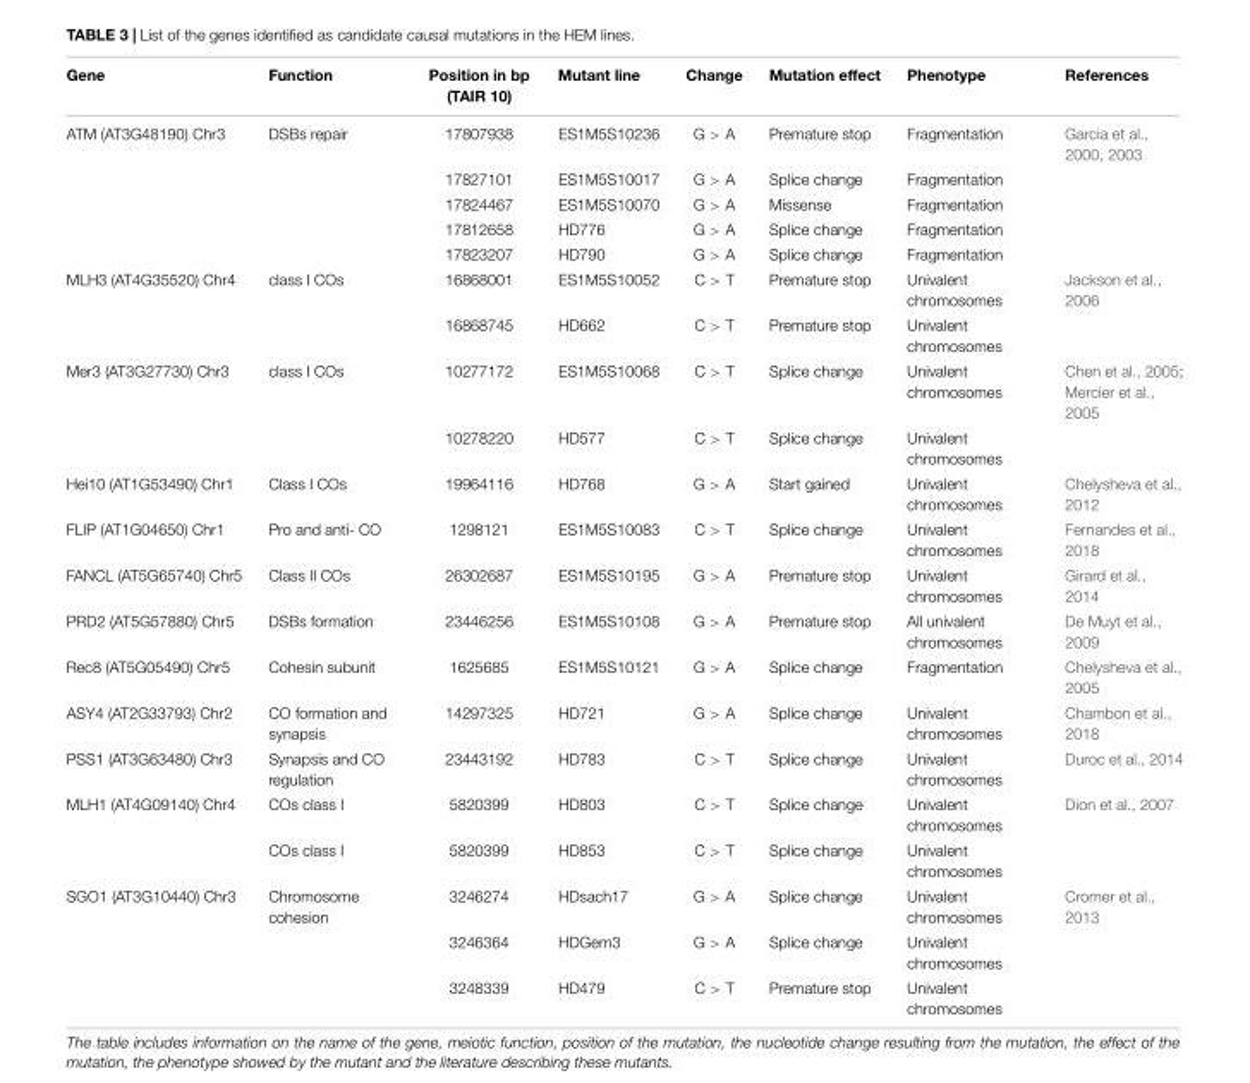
<table><thead><tr><td>Gene</td><td>Function</td><td>Position in bp (TAIR 10)</td><td>Mutant line</td><td>Change</td><td>Mutation effect</td><td>Phenotype</td><td>References</td></tr></thead><tbody><tr><td rowspan="5">ATM (AT3G48190) Chr3</td><td>DSBs repair</td><td>17807938</td><td>ES1M5S10236</td><td>G &gt; A</td><td>Premature stop</td><td>Fragmentation</td><td>Garcia et al., 2000, 2003</td></tr><tr><td></td><td>17827101</td><td>ES1M5S10017</td><td>G &gt; A</td><td>Splice change</td><td>Fragmentation</td><td></td></tr><tr><td></td><td>17824467</td><td>ES1M5S10070</td><td>G &gt; A</td><td>Missense</td><td>Fragmentation</td><td></td></tr><tr><td></td><td>17812658</td><td>HD776</td><td>G &gt; A</td><td>Splice change</td><td>Fragmentation</td><td></td></tr><tr><td></td><td>17823207</td><td>HD790</td><td>G &gt; A</td><td>Splice change</td><td>Fragmentation</td><td></td></tr><tr><td rowspan="2">MLH3 (AT4G35520) Chr4</td><td>class I COs</td><td>16868001</td><td>ES1M5S10052</td><td>C &gt; T</td><td>Premature stop</td><td>Univalent chromosomes</td><td>Jackson et al., 2006</td></tr><tr><td></td><td>16868745</td><td>HD662</td><td>C &gt; T</td><td>Premature stop</td><td>Univalent chromosomes</td><td></td></tr><tr><td rowspan="2">Mer3 (AT3G27730) Chr3</td><td>class I COs</td><td>10277172</td><td>ES1M5S10068</td><td>C &gt; T</td><td>Splice change</td><td>Univalent chromosomes</td><td>Chen et al., 2005; Mercier et al., 2005</td></tr><tr><td></td><td>10278220</td><td>HD577</td><td>C &gt; T</td><td>Splice change</td><td>Univalent chromosomes</td><td></td></tr><tr><td>Hei10 (AT1G53490) Chr1</td><td>Class I COs</td><td>19964116</td><td>HD768</td><td>G &gt; A</td><td>Start gained</td><td>Univalent chromosomes</td><td>Chelysheva et al., 2012</td></tr><tr><td>FLIP (AT1G04650) Chr1</td><td>Pro and anti- CO</td><td>1298121</td><td>ES1M5S10083</td><td>C &gt; T</td><td>Splice change</td><td>Univalent chromosomes</td><td>Fernandes et al., 2018</td></tr><tr><td>FANCL (AT5G65740) Chr5</td><td>Class II COs</td><td>26302687</td><td>ES1M5S10195</td><td>G &gt; A</td><td>Premature stop</td><td>Univalent chromosomes</td><td>Girard et al., 2014</td></tr><tr><td>PRD2 (AT5G57880) Chr5</td><td>DSBs formation</td><td>23446256</td><td>ES1M5S10108</td><td>G &gt; A</td><td>Premature stop</td><td>All univalent chromosomes</td><td>De Muyt et al., 2009</td></tr><tr><td>Rec8 (AT5G05490) Chr5</td><td>Cohesin subunit</td><td>1625685</td><td>ES1M5S10121</td><td>G &gt; A</td><td>Splice change</td><td>Fragmentation</td><td>Chelysheva et al., 2005</td></tr><tr><td>ASY4 (AT2G33793) Chr2</td><td>CO formation and synapsis</td><td>14297325</td><td>HD721</td><td>G &gt; A</td><td>Splice change</td><td>Univalent chromosomes</td><td>Chambon et al., 2018</td></tr><tr><td>PSS1 (AT3G63480) Chr3</td><td>Synapsis and CO regulation</td><td>23443192</td><td>HD783</td><td>C &gt; T</td><td>Splice change</td><td>Univalent chromosomes</td><td>Duroc et al., 2014</td></tr><tr><td rowspan="2">MLH1 (AT4G09140) Chr4</td><td>COs class I</td><td>5820399</td><td>HD803</td><td>C &gt; T</td><td>Splice change</td><td>Univalent chromosomes</td><td>Dion et al., 2007</td></tr><tr><td>COs class I</td><td>5820399</td><td>HD853</td><td>C &gt; T</td><td>Splice change</td><td>Univalent chromosomes</td><td></td></tr><tr><td rowspan="3">SGO1 (AT3G10440) Chr3</td><td>Chromosome cohesion</td><td>3246274</td><td>HDsach17</td><td>G &gt; A</td><td>Splice change</td><td>Univalent chromosomes</td><td>Cromer et al., 2013</td></tr><tr><td></td><td>3246364</td><td>HDGem3</td><td>G &gt; A</td><td>Splice change</td><td>Univalent chromosomes</td><td></td></tr><tr><td></td><td>3248339</td><td>HD479</td><td>C &gt; T</td><td>Premature stop</td><td>Univalent chromosomes</td><td></td></tr></tbody></table>